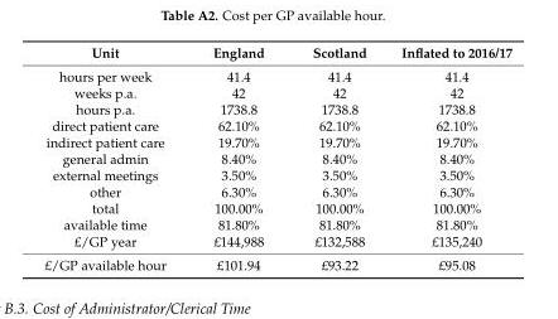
<table><thead><tr><td>Unit</td><td>England</td><td>Scotland</td><td>Inflated to 2016/17</td></tr></thead><tbody><tr><td>hours per week</td><td>41.4</td><td>41.4</td><td>41.4</td></tr><tr><td>weeks p.a.</td><td>42</td><td>42</td><td>42</td></tr><tr><td>hours p.a.</td><td>1738.8</td><td>1738.8</td><td>1738.8</td></tr><tr><td>direct patient care</td><td>62.10%</td><td>62.10%</td><td>62.10%</td></tr><tr><td>indirect patient care</td><td>19.70%</td><td>19.70%</td><td>19.70%</td></tr><tr><td>general admin</td><td>8.40%</td><td>8.40%</td><td>8.40%</td></tr><tr><td>external meetings</td><td>3.50%</td><td>3.50%</td><td>3.50%</td></tr><tr><td>other</td><td>6.30%</td><td>6.30%</td><td>6.30%</td></tr><tr><td>total</td><td>100.00%</td><td>100.00%</td><td>100.00%</td></tr><tr><td>available time</td><td>81.80%</td><td>81.80%</td><td>81.80%</td></tr><tr><td>£/GP year</td><td>£144,988</td><td>£132,588</td><td>£135,240</td></tr><tr><td>£/GP available hour</td><td>£101.94</td><td>£93.22</td><td>£95.08</td></tr></tbody></table>